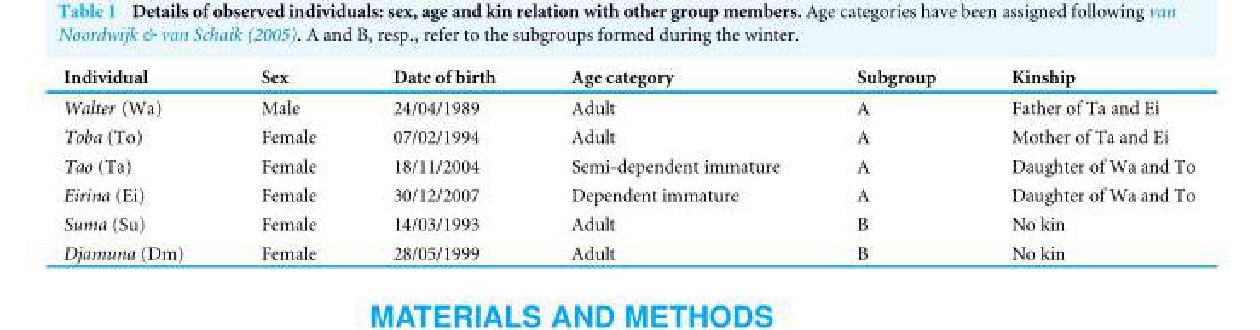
<table><thead><tr><td>Individual</td><td>Sex</td><td>Date of birth</td><td>Age category</td><td>Subgroup</td><td>Kinship</td></tr></thead><tbody><tr><td>Walter (Wa)</td><td>Male</td><td>24/04/1989</td><td>Adult</td><td>A</td><td>Father of Ta and Ei</td></tr><tr><td>Toba (To)</td><td>Female</td><td>07/02/1994</td><td>Adult</td><td>A</td><td>Mother of Ta and Ei</td></tr><tr><td>Tao (Ta)</td><td>Female</td><td>18/11/2004</td><td>Semi-dependent immature</td><td>A</td><td>Daughter of Wa and To</td></tr><tr><td>Eirina (Ei)</td><td>Female</td><td>30/12/2007</td><td>Dependent immature</td><td>A</td><td>Daughter of Wa and To</td></tr><tr><td>Suma (Su)</td><td>Female</td><td>14/03/1993</td><td>Adult</td><td>B</td><td>No kin</td></tr><tr><td>Djamuna (Dm)</td><td>Female</td><td>28/05/1999</td><td>Adult</td><td>B</td><td>No kin</td></tr></tbody></table>